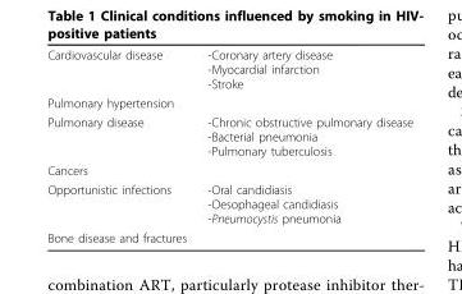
<table><tbody><tr><td>Cardiovascular disease</td><td>-Coronary artery disease -Myocardial infarction -Stroke</td></tr><tr><td colspan="2">Pulmonary hypertension</td></tr><tr><td>Pulmonary disease</td><td>-Chronic obstructive pulmonary disease -Bacterial pneumonia -Pulmonary tuberculosis</td></tr><tr><td colspan="2">Cancers</td></tr><tr><td>Opportunistic infections</td><td>-Oral candidiasis -Oesophageal candidiasis -Pneumocystis pneumonia</td></tr><tr><td>Bone disease and fractures</td><td></td></tr></tbody></table>